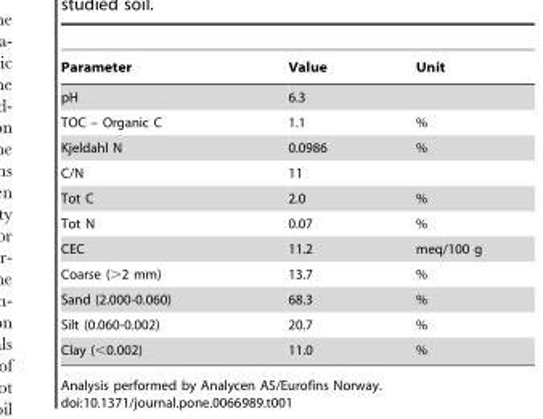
<table><thead><tr><td>Parameter</td><td>Value</td><td>Unit</td></tr></thead><tbody><tr><td>pH</td><td>6.3</td><td></td></tr><tr><td>TOC – Organic C</td><td>1.1</td><td>%</td></tr><tr><td>Kjeldahl N</td><td>0.0986</td><td>%</td></tr><tr><td>C/N</td><td>11</td><td></td></tr><tr><td>Tot C</td><td>2.0</td><td>%</td></tr><tr><td>Tot N</td><td>0.07</td><td>%</td></tr><tr><td>CEC</td><td>11.2</td><td>meq/100 g</td></tr><tr><td>Coarse (&gt;2 mm)</td><td>13.7</td><td>%</td></tr><tr><td>Sand (2.000-0.060)</td><td>68.3</td><td>%</td></tr><tr><td>Silt (0.060-0.002)</td><td>20.7</td><td>%</td></tr><tr><td>Clay (&lt;0.002)</td><td>11.0</td><td>%</td></tr></tbody></table>